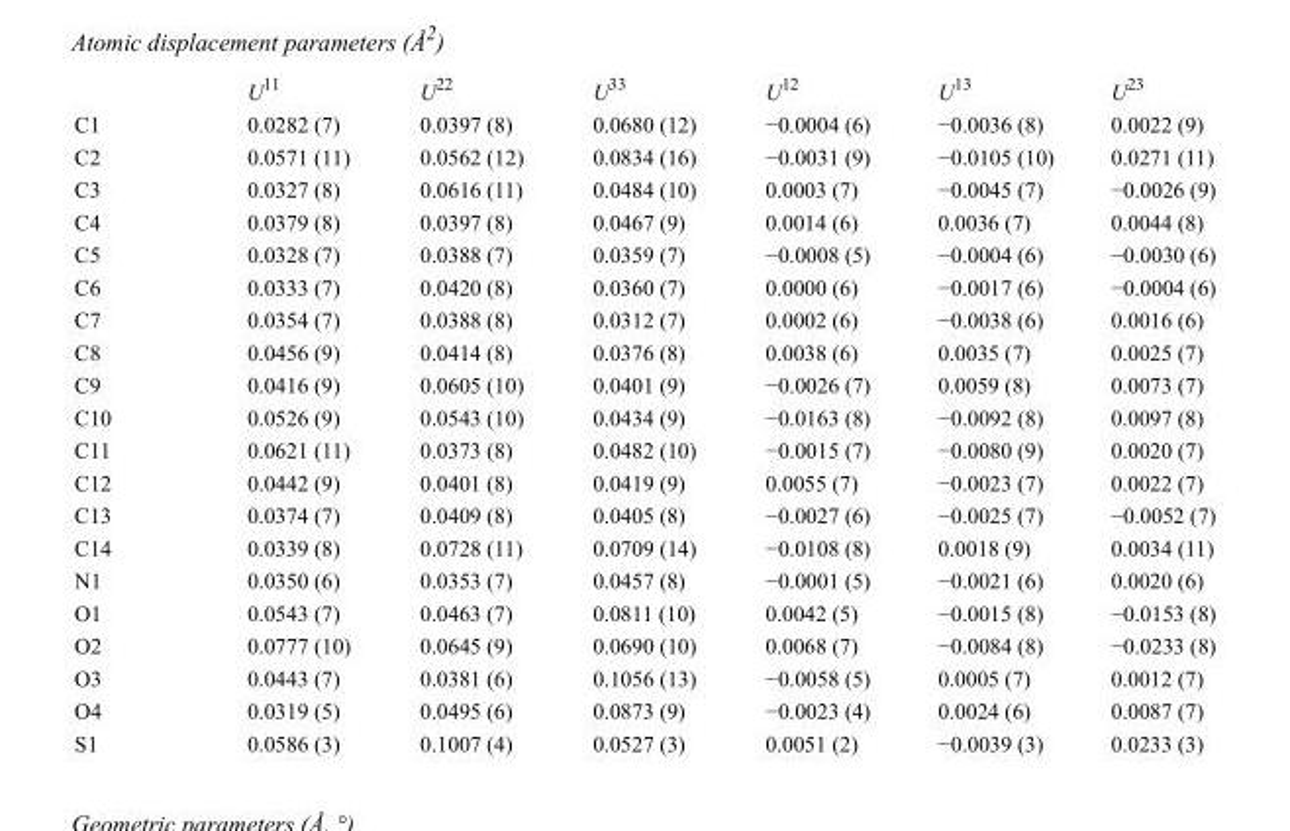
<table><thead><tr><td></td><td>U<sup>11</sup></td><td>U<sup>22</sup></td><td>U<sup>33</sup></td><td>U<sup>12</sup></td><td>U<sup>13</sup></td><td>U<sup>23</sup></td></tr></thead><tbody><tr><td>C1</td><td>0.0282 (7)</td><td>0.0397 (8)</td><td>0.0680 (12)</td><td>−0.0004 (6)</td><td>−0.0036 (8)</td><td>0.0022 (9)</td></tr><tr><td>C2</td><td>0.0571 (11)</td><td>0.0562 (12)</td><td>0.0834 (16)</td><td>−0.0031 (9)</td><td>−0.0105 (10)</td><td>0.0271 (11)</td></tr><tr><td>C3</td><td>0.0327 (8)</td><td>0.0616 (11)</td><td>0.0484 (10)</td><td>0.0003 (7)</td><td>−0.0045 (7)</td><td>−0.0026 (9)</td></tr><tr><td>C4</td><td>0.0379 (8)</td><td>0.0397 (8)</td><td>0.0467 (9)</td><td>0.0014 (6)</td><td>0.0036 (7)</td><td>0.0044 (8)</td></tr><tr><td>C5</td><td>0.0328 (7)</td><td>0.0388 (7)</td><td>0.0359 (7)</td><td>−0.0008 (5)</td><td>−0.0004 (6)</td><td>−0.0030 (6)</td></tr><tr><td>C6</td><td>0.0333 (7)</td><td>0.0420 (8)</td><td>0.0360 (7)</td><td>0.0000 (6)</td><td>−0.0017 (6)</td><td>−0.0004 (6)</td></tr><tr><td>C7</td><td>0.0354 (7)</td><td>0.0388 (8)</td><td>0.0312 (7)</td><td>0.0002 (6)</td><td>−0.0038 (6)</td><td>0.0016 (6)</td></tr><tr><td>C8</td><td>0.0456 (9)</td><td>0.0414 (8)</td><td>0.0376 (8)</td><td>0.0038 (6)</td><td>0.0035 (7)</td><td>0.0025 (7)</td></tr><tr><td>C9</td><td>0.0416 (9)</td><td>0.0605 (10)</td><td>0.0401 (9)</td><td>−0.0026 (7)</td><td>0.0059 (8)</td><td>0.0073 (7)</td></tr><tr><td>C10</td><td>0.0526 (9)</td><td>0.0543 (10)</td><td>0.0434 (9)</td><td>−0.0163 (8)</td><td>−0.0092 (8)</td><td>0.0097 (8)</td></tr><tr><td>C11</td><td>0.0621 (11)</td><td>0.0373 (8)</td><td>0.0482 (10)</td><td>−0.0015 (7)</td><td>−0.0080 (9)</td><td>0.0020 (7)</td></tr><tr><td>C12</td><td>0.0442 (9)</td><td>0.0401 (8)</td><td>0.0419 (9)</td><td>0.0055 (7)</td><td>−0.0023 (7)</td><td>0.0022 (7)</td></tr><tr><td>C13</td><td>0.0374 (7)</td><td>0.0409 (8)</td><td>0.0405 (8)</td><td>−0.0027 (6)</td><td>−0.0025 (7)</td><td>−0.0052 (7)</td></tr><tr><td>C14</td><td>0.0339 (8)</td><td>0.0728 (11)</td><td>0.0709 (14)</td><td>−0.0108 (8)</td><td>0.0018 (9)</td><td>0.0034 (11)</td></tr><tr><td>N1</td><td>0.0350 (6)</td><td>0.0353 (7)</td><td>0.0457 (8)</td><td>−0.0001 (5)</td><td>−0.0021 (6)</td><td>0.0020 (6)</td></tr><tr><td>O1</td><td>0.0543 (7)</td><td>0.0463 (7)</td><td>0.0811 (10)</td><td>0.0042 (5)</td><td>−0.0015 (8)</td><td>−0.0153 (8)</td></tr><tr><td>O2</td><td>0.0777 (10)</td><td>0.0645 (9)</td><td>0.0690 (10)</td><td>0.0068 (7)</td><td>−0.0084 (8)</td><td>−0.0233 (8)</td></tr><tr><td>O3</td><td>0.0443 (7)</td><td>0.0381 (6)</td><td>0.1056 (13)</td><td>−0.0058 (5)</td><td>0.0005 (7)</td><td>0.0012 (7)</td></tr><tr><td>O4</td><td>0.0319 (5)</td><td>0.0495 (6)</td><td>0.0873 (9)</td><td>−0.0023 (4)</td><td>0.0024 (6)</td><td>0.0087 (7)</td></tr><tr><td>S1</td><td>0.0586 (3)</td><td>0.1007 (4)</td><td>0.0527 (3)</td><td>0.0051 (2)</td><td>−0.0039 (3)</td><td>0.0233 (3)</td></tr></tbody></table>